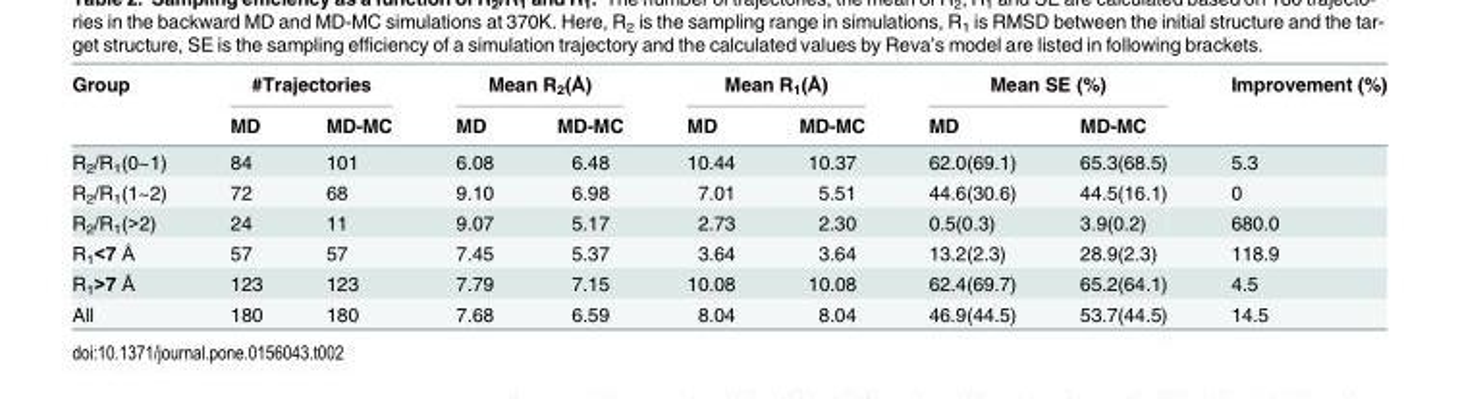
<table><thead><tr><td rowspan="2">Group</td><td colspan="2">#Trajectories</td><td colspan="2">Mean R<sub>2</sub>(Å)</td><td colspan="2">Mean R<sub>1</sub>(Å)</td><td colspan="2">Mean SE (%)</td><td rowspan="2">Improvement (%)</td></tr><tr><td>MD</td><td>MD-MC</td><td>MD</td><td>MD-MC</td><td>MD</td><td>MD-MC</td><td>MD</td><td>MD-MC</td></tr></thead><tbody><tr><td>R<sub>2</sub>/R<sub>1</sub>(0~1)</td><td>84</td><td>101</td><td>6.08</td><td>6.48</td><td>10.44</td><td>10.37</td><td>62.0(69.1)</td><td>65.3(68.5)</td><td>5.3</td></tr><tr><td>R<sub>2</sub>/R<sub>1</sub>(1~2)</td><td>72</td><td>68</td><td>9.10</td><td>6.98</td><td>7.01</td><td>5.51</td><td>44.6(30.6)</td><td>44.5(16.1)</td><td>0</td></tr><tr><td>R<sub>2</sub>/R<sub>1</sub>(&gt;2)</td><td>24</td><td>11</td><td>9.07</td><td>5.17</td><td>2.73</td><td>2.30</td><td>0.5(0.3)</td><td>3.9(0.2)</td><td>680.0</td></tr><tr><td>R<sub>1</sub>&lt;7 Å</td><td>57</td><td>57</td><td>7.45</td><td>5.37</td><td>3.64</td><td>3.64</td><td>13.2(2.3)</td><td>28.9(2.3)</td><td>118.9</td></tr><tr><td>R<sub>1</sub>&gt;7 Å</td><td>123</td><td>123</td><td>7.79</td><td>7.15</td><td>10.08</td><td>10.08</td><td>62.4(69.7)</td><td>65.2(64.1)</td><td>4.5</td></tr><tr><td>All</td><td>180</td><td>180</td><td>7.68</td><td>6.59</td><td>8.04</td><td>8.04</td><td>46.9(44.5)</td><td>53.7(44.5)</td><td>14.5</td></tr></tbody></table>